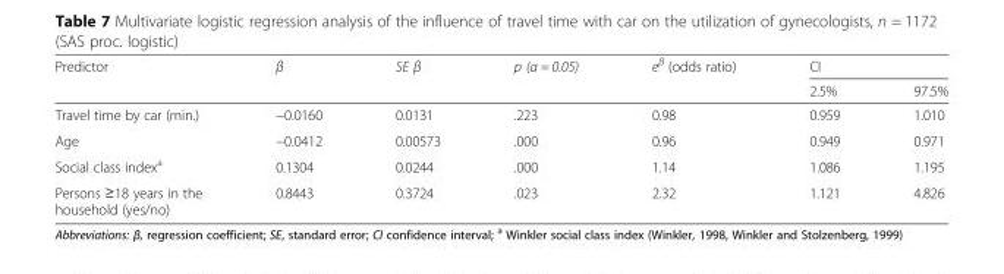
<table><thead><tr><td rowspan="2">Predictor</td><td rowspan="2">β</td><td rowspan="2">SE β</td><td rowspan="2">p (α = 0.05)</td><td rowspan="2">e<sup>β</sup> (odds ratio)</td><td colspan="2">CI</td></tr><tr><td>2.5%</td><td>97.5%</td></tr></thead><tbody><tr><td>Travel time by car (min.)</td><td>−0.0160</td><td>0.0131</td><td>.223</td><td>0.98</td><td>0.959</td><td>1.010</td></tr><tr><td>Age</td><td>−0.0412</td><td>0.00573</td><td>.000</td><td>0.96</td><td>0.949</td><td>0.971</td></tr><tr><td>Social class index<sup>a</sup></td><td>0.1304</td><td>0.0244</td><td>.000</td><td>1.14</td><td>1.086</td><td>1.195</td></tr><tr><td>Persons ≥18 years in the household (yes/no)</td><td>0.8443</td><td>0.3724</td><td>.023</td><td>2.32</td><td>1.121</td><td>4.826</td></tr></tbody></table>